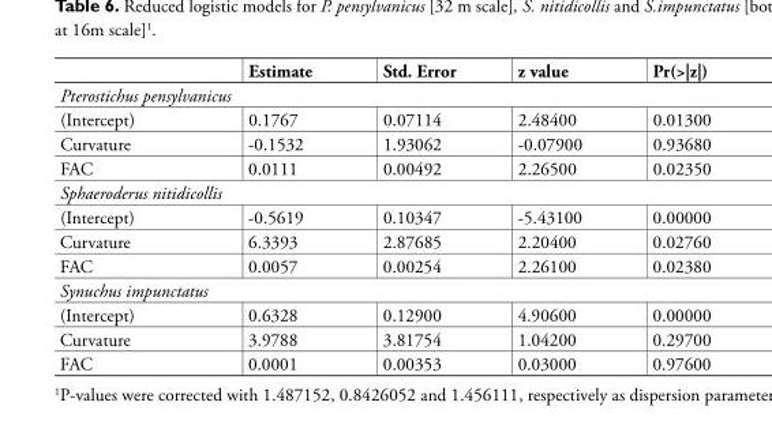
<table><thead><tr><td></td><td>Estimate</td><td>Std. Error</td><td>z value</td><td>Pr(&gt;|z|)</td></tr></thead><tbody><tr><td colspan="5">Pterostichus pensylvanicus</td></tr><tr><td>(Intercept)</td><td>0.1767</td><td>0.07114</td><td>2.48400</td><td>0.01300</td></tr><tr><td>Curvature</td><td>-0.1532</td><td>1.93062</td><td>-0.07900</td><td>0.93680</td></tr><tr><td>FAC</td><td>0.0111</td><td>0.00492</td><td>2.26500</td><td>0.02350</td></tr><tr><td colspan="5">Sphaeroderus nitidicollis</td></tr><tr><td>(Intercept)</td><td>-0.5619</td><td>0.10347</td><td>-5.43100</td><td>0.00000</td></tr><tr><td>Curvature</td><td>6.3393</td><td>2.87685</td><td>2.20400</td><td>0.02760</td></tr><tr><td>FAC</td><td>0.0057</td><td>0.00254</td><td>2.26100</td><td>0.02380</td></tr><tr><td colspan="5">Synuchus impunctatus</td></tr><tr><td>(Intercept)</td><td>0.6328</td><td>0.12900</td><td>4.90600</td><td>0.00000</td></tr><tr><td>Curvature</td><td>3.9788</td><td>3.81754</td><td>1.04200</td><td>0.29700</td></tr><tr><td>FAC</td><td>0.0001</td><td>0.00353</td><td>0.03000</td><td>0.97600</td></tr></tbody></table>